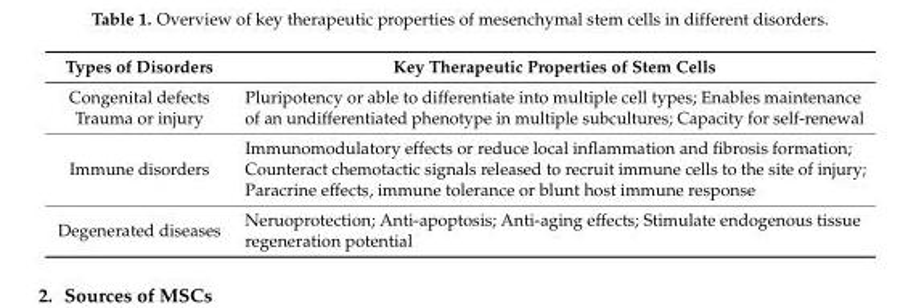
<table><thead><tr><td>Types of Disorders</td><td>Key Therapeutic Properties of Stem Cells</td></tr></thead><tbody><tr><td>Congenital defects Trauma or injury</td><td>Pluripotency or able to differentiate into multiple cell types; Enables maintenance of an undifferentiated phenotype in multiple subcultures; Capacity for self-renewal</td></tr><tr><td>Immune disorders</td><td>Immunomodulatory effects or reduce local inflammation and fibrosis formation; Counteract chemotactic signals released to recruit immune cells to the site of injury; Paracrine effects, immune tolerance or blunt host immune response</td></tr><tr><td>Degenerated diseases</td><td>Neruoprotection; Anti-apoptosis; Anti-aging effects; Stimulate endogenous tissue regeneration potential</td></tr></tbody></table>